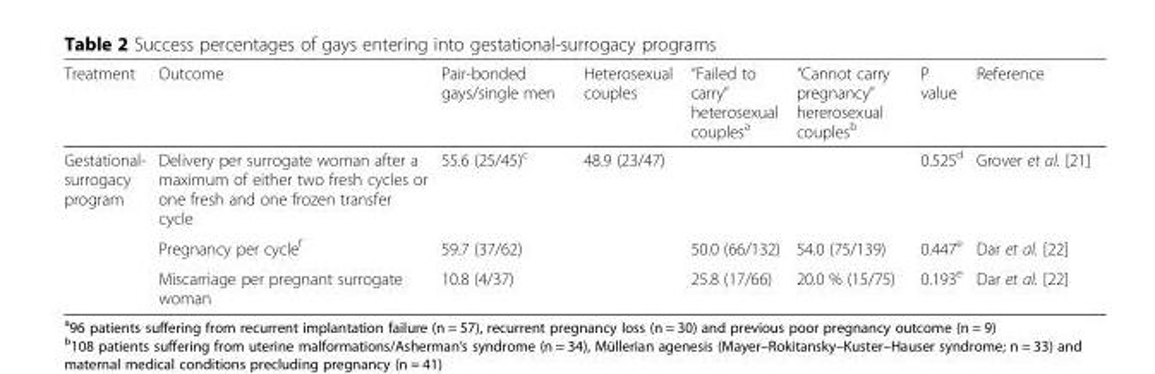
<table><thead><tr><td>Treatment</td><td>Outcome</td><td>Pair-bonded gays/single men</td><td>Heterosexual couples</td><td>“Failed to carry” heterosexual couples<sup>a</sup></td><td>“Cannot carry pregnancy” hererosexual couples<sup>b</sup></td><td>P value</td><td>Reference</td></tr></thead><tbody><tr><td rowspan="3">Gestational- surrogacy program</td><td>Delivery per surrogate woman after a maximum of either two fresh cycles or one fresh and one frozen transfer cycle</td><td>55.6 (25/45)<sup>c</sup></td><td>48.9 (23/47)</td><td></td><td></td><td>0.525<sup>d</sup></td><td>Grover et al. [21]</td></tr><tr><td>Pregnancy per cycle<sup>f</sup></td><td>59.7 (37/62)</td><td></td><td>50.0 (66/132)</td><td>54.0 (75/139)</td><td>0.447<sup>e</sup></td><td>Dar et al. [22]</td></tr><tr><td>Miscarriage per pregnant surrogate woman</td><td>10.8 (4/37)</td><td></td><td>25.8 (17/66)</td><td>20.0 % (15/75)</td><td>0.193<sup>e</sup></td><td>Dar et al. [22]</td></tr></tbody></table>